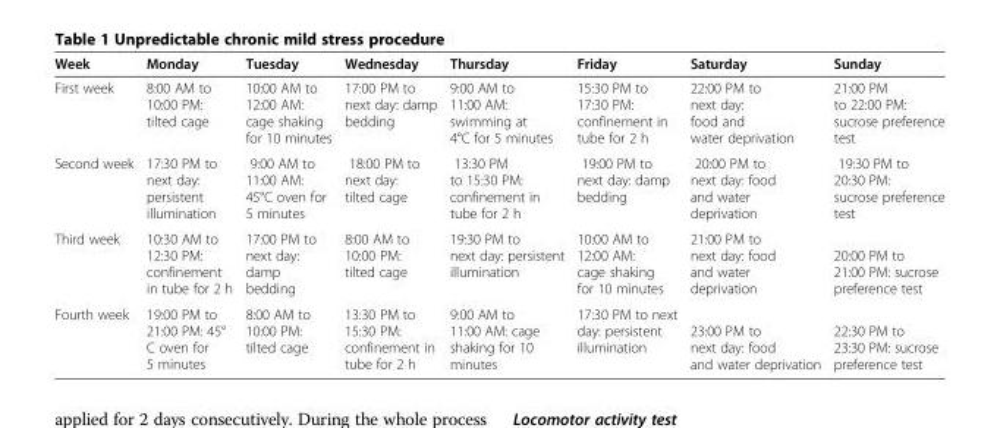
<table><thead><tr><td>Week</td><td>Monday</td><td>Tuesday</td><td>Wednesday</td><td>Thursday</td><td>Friday</td><td>Saturday</td><td>Sunday</td></tr></thead><tbody><tr><td>First week</td><td>8:00 AM to 10:00 PM: tilted cage</td><td>10:00 AM to 12:00 AM: cage shaking for 10 minutes</td><td>17:00 PM to next day: damp bedding</td><td>9:00 AM to 11:00 AM: swimming at 4°C for 5 minutes</td><td>15:30 PM to 17:30 PM: confinement in tube for 2 h</td><td>22:00 PM to next day: food and water deprivation</td><td>21:00 PM to 22:00 PM: sucrose preference test</td></tr><tr><td>Second week</td><td>17:30 PM to next day: persistent illumination</td><td>9:00 AM to 11:00 AM: 45°C oven for 5 minutes</td><td>18:00 PM to next day: tilted cage</td><td>13:30 PM to 15:30 PM: confinement in tube for 2 h</td><td>19:00 PM to next day: damp bedding</td><td>20:00 PM to next day: food and water deprivation</td><td>19:30 PM to 20:30 PM: sucrose preference test</td></tr><tr><td>Third week</td><td>10:30 AM to 12:30 PM: confinement in tube for 2 h</td><td>17:00 PM to next day: damp bedding</td><td>8:00 AM to 10:00 PM: tilted cage</td><td>19:30 PM to next day: persistent illumination</td><td>10:00 AM to 12:00 AM: cage shaking for 10 minutes</td><td>21:00 PM to next day: food and water deprivation</td><td>20:00 PM to 21:00 PM: sucrose preference test</td></tr><tr><td>Fourth week</td><td>19:00 PM to 21:00 PM: 45° C oven for 5 minutes</td><td>8:00 AM to 10:00 PM: tilted cage</td><td>13:30 PM to 15:30 PM: confinement in tube for 2 h</td><td>9:00 AM to 11:00 AM: cage shaking for 10 minutes</td><td>17:30 PM to next day: persistent illumination</td><td>23:00 PM to next day: food and water deprivation</td><td>22:30 PM to 23:30 PM: sucrose preference test</td></tr></tbody></table>